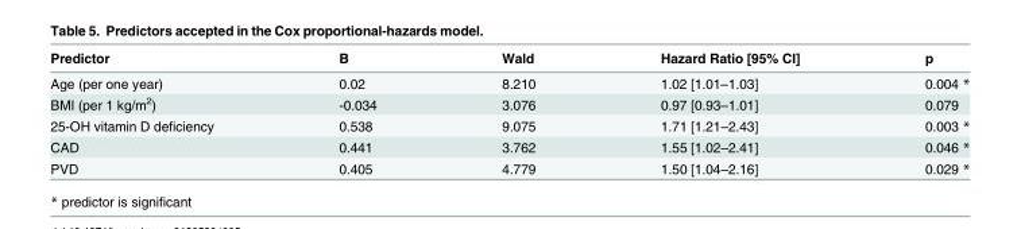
<table><thead><tr><td>Predictor</td><td>B</td><td>Wald</td><td>Hazard Ratio [95% CI]</td><td>p</td></tr></thead><tbody><tr><td>Age (per one year)</td><td>0.02</td><td>8.210</td><td>1.02 [1.01–1.03]</td><td>0.004 *</td></tr><tr><td>BMI (per 1 kg/m<sup>2</sup>)</td><td>-0.034</td><td>3.076</td><td>0.97 [0.93–1.01]</td><td>0.079</td></tr><tr><td>25-OH vitamin D deficiency</td><td>0.538</td><td>9.075</td><td>1.71 [1.21–2.43]</td><td>0.003 *</td></tr><tr><td>CAD</td><td>0.441</td><td>3.762</td><td>1.55 [1.02–2.41]</td><td>0.046 *</td></tr><tr><td>PVD</td><td>0.405</td><td>4.779</td><td>1.50 [1.04–2.16]</td><td>0.029 *</td></tr></tbody></table>